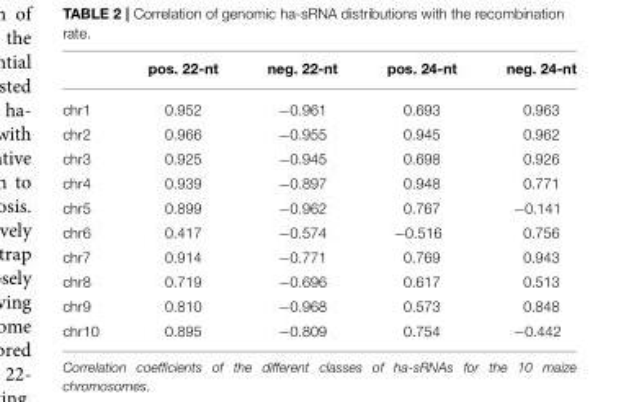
<table><thead><tr><td></td><td>pos. 22-nt</td><td>neg. 22-nt</td><td>pos. 24-nt</td><td>neg. 24-nt</td></tr></thead><tbody><tr><td>chr1</td><td>0.952</td><td>−0.961</td><td>0.693</td><td>0.963</td></tr><tr><td>chr2</td><td>0.966</td><td>−0.955</td><td>0.945</td><td>0.962</td></tr><tr><td>chr3</td><td>0.925</td><td>−0.945</td><td>0.698</td><td>0.926</td></tr><tr><td>chr4</td><td>0.939</td><td>−0.897</td><td>0.948</td><td>0.771</td></tr><tr><td>chr5</td><td>0.899</td><td>−0.962</td><td>0.767</td><td>−0.141</td></tr><tr><td>chr6</td><td>0.417</td><td>−0.574</td><td>−0.516</td><td>0.756</td></tr><tr><td>chr7</td><td>0.914</td><td>−0.771</td><td>0.769</td><td>0.943</td></tr><tr><td>chr8</td><td>0.719</td><td>−0.696</td><td>0.617</td><td>0.513</td></tr><tr><td>chr9</td><td>0.810</td><td>−0.968</td><td>0.573</td><td>0.848</td></tr><tr><td>chr10</td><td>0.895</td><td>−0.809</td><td>0.754</td><td>−0.442</td></tr></tbody></table>